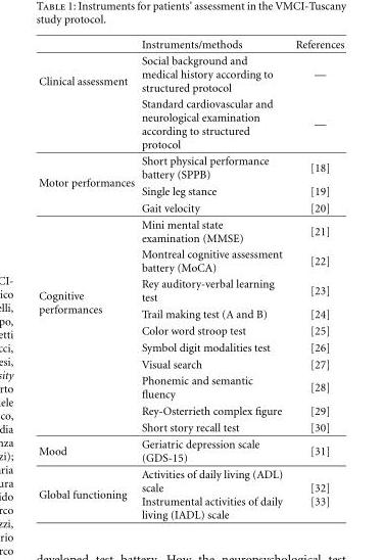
<table><thead><tr><td></td><td>Instruments/methods</td><td>References</td></tr></thead><tbody><tr><td rowspan="2">Clinical assessment</td><td>Social background and medical history according to structured protocol</td><td>—</td></tr><tr><td>Standard cardiovascular and neurological examination according to structured protocol</td><td>—</td></tr><tr><td rowspan="3">Motor performances</td><td>Short physical performance battery (SPPB)</td><td>[18]</td></tr><tr><td>Single leg stance</td><td>[19]</td></tr><tr><td>Gait velocity</td><td>[20]</td></tr><tr><td rowspan="10">Cognitive performances</td><td>Mini mental state examination (MMSE)</td><td>[21]</td></tr><tr><td>Montreal cognitive assessment battery (MoCA)</td><td>[22]</td></tr><tr><td>Rey auditory-verbal learning test</td><td>[23]</td></tr><tr><td>Trail making test (A and B)</td><td>[24]</td></tr><tr><td>Color word stroop test</td><td>[25]</td></tr><tr><td>Symbol digit modalities test</td><td>[26]</td></tr><tr><td>Visual search</td><td>[27]</td></tr><tr><td>Phonemic and semantic fluency</td><td>[28]</td></tr><tr><td>Rey-Osterrieth complex figure</td><td>[29]</td></tr><tr><td>Short story recall test</td><td>[30]</td></tr><tr><td>Mood</td><td>Geriatric depression scale (GDS-15)</td><td>[31]</td></tr><tr><td>Global functioning</td><td>Activities of daily living (ADL) scale Instrumental activities of daily living (IADL) scale</td><td>[32] [33]</td></tr></tbody></table>